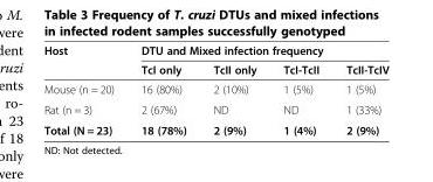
<table><thead><tr><td rowspan="2">Host</td><td colspan="4">DTU and Mixed infection frequency</td></tr><tr><td>TcI only</td><td>TcII only</td><td>TcI-TcII</td><td>TcII-TcIV</td></tr></thead><tbody><tr><td>Mouse (n = 20)</td><td>16 (80%)</td><td>2 (10%)</td><td>1 (5%)</td><td>1 (5%)</td></tr><tr><td>Rat (n = 3)</td><td>2 (67%)</td><td>ND</td><td>ND</td><td>1 (33%)</td></tr><tr><td>Total (N = 23)</td><td>18 (78%)</td><td>2 (9%)</td><td>1 (4%)</td><td>2 (9%)</td></tr></tbody></table>